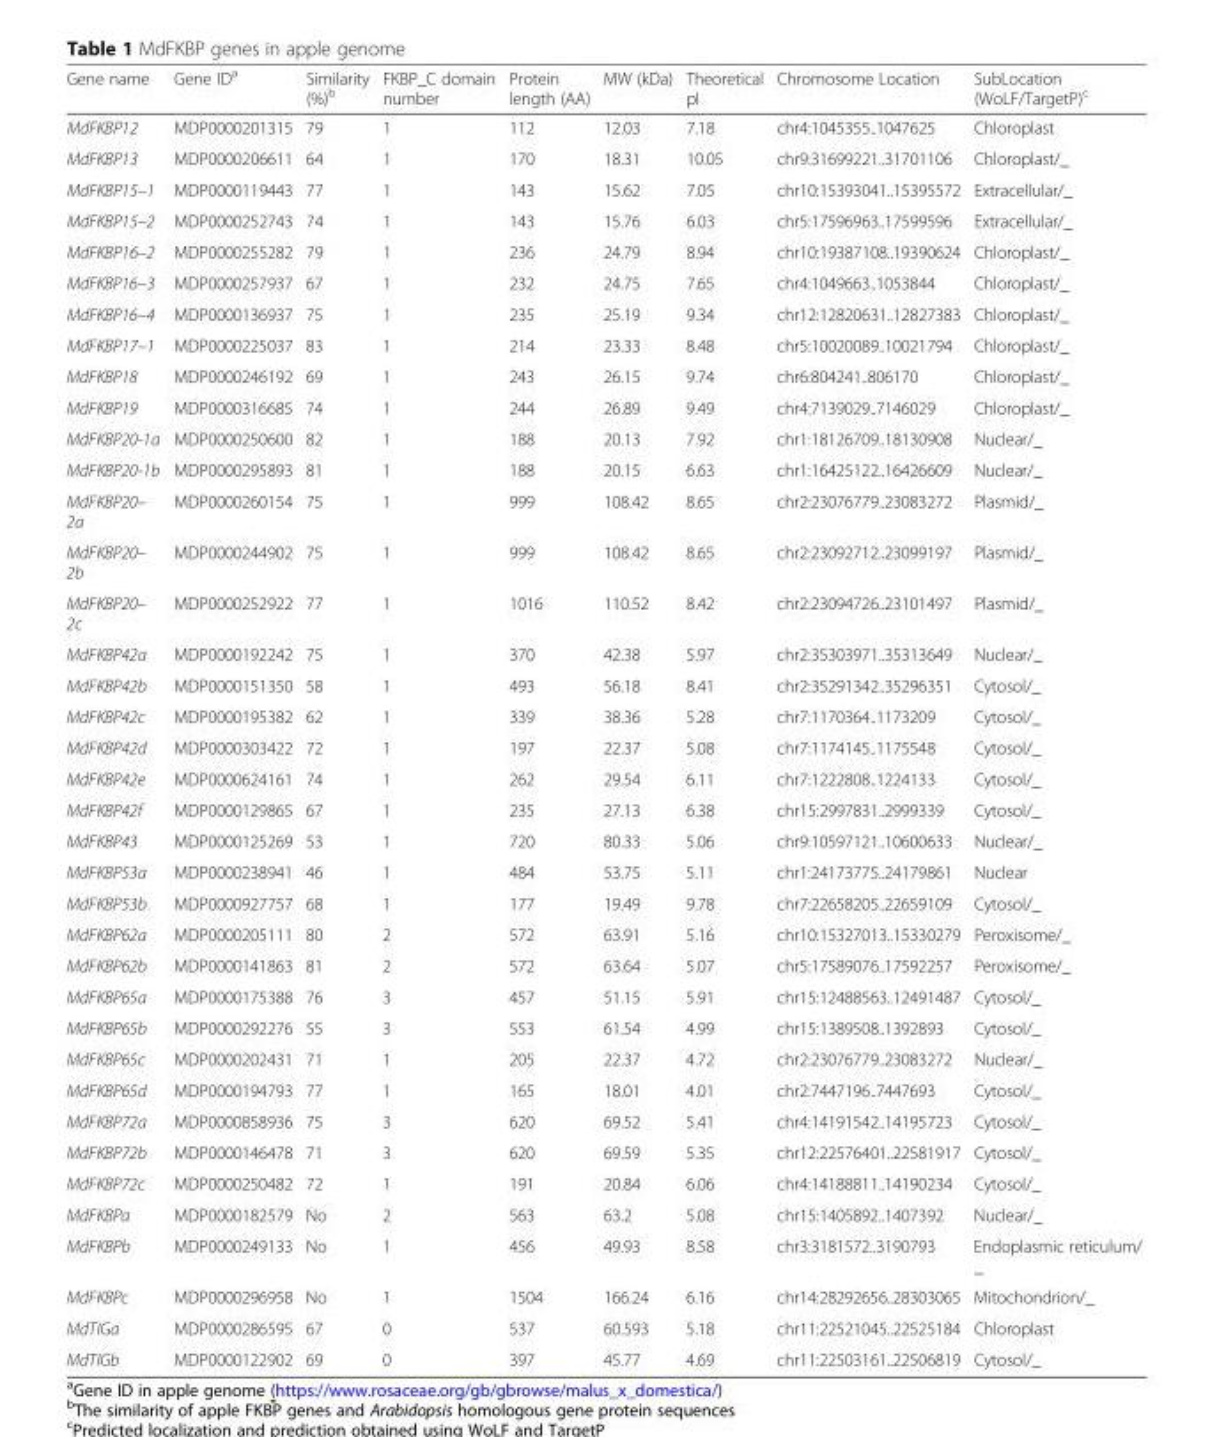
<table><thead><tr><td>Gene name</td><td>Gene ID<sup>a</sup></td><td>Similarity (%)<sup>b</sup></td><td>FKBP_C domain number</td><td>Protein length (AA)</td><td>MW (kDa)</td><td>Theoretical pI</td><td>Chromosome Location</td><td>SubLocation (WoLF/TargetP)<sup>c</sup></td></tr></thead><tbody><tr><td>MdFKBP12</td><td>MDP0000201315</td><td>79</td><td>1</td><td>112</td><td>12.03</td><td>7.18</td><td>chr4:1045355..1047625</td><td>Chloroplast</td></tr><tr><td>MdFKBP13</td><td>MDP0000206611</td><td>64</td><td>1</td><td>170</td><td>18.31</td><td>10.05</td><td>chr9:31699221..31701106</td><td>Chloroplast/_</td></tr><tr><td>MdFKBP15–1</td><td>MDP0000119443</td><td>77</td><td>1</td><td>143</td><td>15.62</td><td>7.05</td><td>chr10:15393041..15395572</td><td>Extracellular/_</td></tr><tr><td>MdFKBP15–2</td><td>MDP0000252743</td><td>74</td><td>1</td><td>143</td><td>15.76</td><td>6.03</td><td>chr5:17596963..17599596</td><td>Extracellular/_</td></tr><tr><td>MdFKBP16–2</td><td>MDP0000255282</td><td>79</td><td>1</td><td>236</td><td>24.79</td><td>8.94</td><td>chr10:19387108..19390624</td><td>Chloroplast/_</td></tr><tr><td>MdFKBP16–3</td><td>MDP0000257937</td><td>67</td><td>1</td><td>232</td><td>24.75</td><td>7.65</td><td>chr4:1049663..1053844</td><td>Chloroplast/_</td></tr><tr><td>MdFKBP16–4</td><td>MDP0000136937</td><td>75</td><td>1</td><td>235</td><td>25.19</td><td>9.34</td><td>chr12:12820631..12827383</td><td>Chloroplast/_</td></tr><tr><td>MdFKBP17–1</td><td>MDP0000225037</td><td>83</td><td>1</td><td>214</td><td>23.33</td><td>8.48</td><td>chr5:10020089..10021794</td><td>Chloroplast/_</td></tr><tr><td>MdFKBP18</td><td>MDP0000246192</td><td>69</td><td>1</td><td>243</td><td>26.15</td><td>9.74</td><td>chr6:804241..806170</td><td>Chloroplast/_</td></tr><tr><td>MdFKBP19</td><td>MDP0000316685</td><td>74</td><td>1</td><td>244</td><td>26.89</td><td>9.49</td><td>chr4:7139029..7146029</td><td>Chloroplast/_</td></tr><tr><td>MdFKBP20-1a</td><td>MDP0000250600</td><td>82</td><td>1</td><td>188</td><td>20.13</td><td>7.92</td><td>chr1:18126709..18130908</td><td>Nuclear/_</td></tr><tr><td>MdFKBP20-1b</td><td>MDP0000295893</td><td>81</td><td>1</td><td>188</td><td>20.15</td><td>6.63</td><td>chr1:16425122..16426609</td><td>Nuclear/_</td></tr><tr><td>MdFKBP20– 2a</td><td>MDP0000260154</td><td>75</td><td>1</td><td>999</td><td>108.42</td><td>8.65</td><td>chr2:23076779..23083272</td><td>Plasmid/_</td></tr><tr><td>MdFKBP20– 2b</td><td>MDP0000244902</td><td>75</td><td>1</td><td>999</td><td>108.42</td><td>8.65</td><td>chr2:23092712..23099197</td><td>Plasmid/_</td></tr><tr><td>MdFKBP20– 2c</td><td>MDP0000252922</td><td>77</td><td>1</td><td>1016</td><td>110.52</td><td>8.42</td><td>chr2:23094726..23101497</td><td>Plasmid/_</td></tr><tr><td>MdFKBP42a</td><td>MDP0000192242</td><td>75</td><td>1</td><td>370</td><td>42.38</td><td>5.97</td><td>chr2:35303971..35313649</td><td>Nuclear/_</td></tr><tr><td>MdFKBP42b</td><td>MDP0000151350</td><td>58</td><td>1</td><td>493</td><td>56.18</td><td>8.41</td><td>chr2:35291342..35296351</td><td>Cytosol/_</td></tr><tr><td>MdFKBP42c</td><td>MDP0000195382</td><td>62</td><td>1</td><td>339</td><td>38.36</td><td>5.28</td><td>chr7:1170364..1173209</td><td>Cytosol/_</td></tr><tr><td>MdFKBP42d</td><td>MDP0000303422</td><td>72</td><td>1</td><td>197</td><td>22.37</td><td>5.08</td><td>chr7:1174145..1175548</td><td>Cytosol/_</td></tr><tr><td>MdFKBP42e</td><td>MDP0000624161</td><td>74</td><td>1</td><td>262</td><td>29.54</td><td>6.11</td><td>chr7:1222808..1224133</td><td>Cytosol/_</td></tr><tr><td>MdFKBP42f</td><td>MDP0000129865</td><td>67</td><td>1</td><td>235</td><td>27.13</td><td>6.38</td><td>chr15:2997831..2999339</td><td>Cytosol/_</td></tr><tr><td>MdFKBP43</td><td>MDP0000125269</td><td>53</td><td>1</td><td>720</td><td>80.33</td><td>5.06</td><td>chr9:10597121..10600633</td><td>Nuclear/_</td></tr><tr><td>MdFKBP53a</td><td>MDP0000238941</td><td>46</td><td>1</td><td>484</td><td>53.75</td><td>5.11</td><td>chr1:24173775..24179861</td><td>Nuclear</td></tr><tr><td>MdFKBP53b</td><td>MDP0000927757</td><td>68</td><td>1</td><td>177</td><td>19.49</td><td>9.78</td><td>chr7:22658205..22659109</td><td>Cytosol/_</td></tr><tr><td>MdFKBP62a</td><td>MDP0000205111</td><td>80</td><td>2</td><td>572</td><td>63.91</td><td>5.16</td><td>chr10:15327013..15330279</td><td>Peroxisome/_</td></tr><tr><td>MdFKBP62b</td><td>MDP0000141863</td><td>81</td><td>2</td><td>572</td><td>63.64</td><td>5.07</td><td>chr5:17589076..17592257</td><td>Peroxisome/_</td></tr><tr><td>MdFKBP65a</td><td>MDP0000175388</td><td>76</td><td>3</td><td>457</td><td>51.15</td><td>5.91</td><td>chr15:12488563..12491487</td><td>Cytosol/_</td></tr><tr><td>MdFKBP65b</td><td>MDP0000292276</td><td>55</td><td>3</td><td>553</td><td>61.54</td><td>4.99</td><td>chr15:1389508..1392893</td><td>Cytosol/_</td></tr><tr><td>MdFKBP65c</td><td>MDP0000202431</td><td>71</td><td>1</td><td>205</td><td>22.37</td><td>4.72</td><td>chr2:23076779..23083272</td><td>Nuclear/_</td></tr><tr><td>MdFKBP65d</td><td>MDP0000194793</td><td>77</td><td>1</td><td>165</td><td>18.01</td><td>4.01</td><td>chr2:7447196..7447693</td><td>Cytosol/_</td></tr><tr><td>MdFKBP72a</td><td>MDP0000858936</td><td>75</td><td>3</td><td>620</td><td>69.52</td><td>5.41</td><td>chr4:14191542..14195723</td><td>Cytosol/_</td></tr><tr><td>MdFKBP72b</td><td>MDP0000146478</td><td>71</td><td>3</td><td>620</td><td>69.59</td><td>5.35</td><td>chr12:22576401..22581917</td><td>Cytosol/_</td></tr><tr><td>MdFKBP72c</td><td>MDP0000250482</td><td>72</td><td>1</td><td>191</td><td>20.84</td><td>6.06</td><td>chr4:14188811..14190234</td><td>Cytosol/_</td></tr><tr><td>MdFKBPa</td><td>MDP0000182579</td><td>No</td><td>2</td><td>563</td><td>63.2</td><td>5.08</td><td>chr15:1405892..1407392</td><td>Nuclear/_</td></tr><tr><td>MdFKBPb</td><td>MDP0000249133</td><td>No</td><td>1</td><td>456</td><td>49.93</td><td>8.58</td><td>chr3:3181572..3190793</td><td>Endoplasmic reticulum/ _</td></tr><tr><td>MdFKBPc</td><td>MDP0000296958</td><td>No</td><td>1</td><td>1504</td><td>166.24</td><td>6.16</td><td>chr14:28292656..28303065</td><td>Mitochondrion/_</td></tr><tr><td>MdTIGa</td><td>MDP0000286595</td><td>67</td><td>0</td><td>537</td><td>60.593</td><td>5.18</td><td>chr11:22521045..22525184</td><td>Chloroplast</td></tr><tr><td>MdTIGb</td><td>MDP0000122902</td><td>69</td><td>0</td><td>397</td><td>45.77</td><td>4.69</td><td>chr11:22503161..22506819</td><td>Cytosol/_</td></tr></tbody></table>